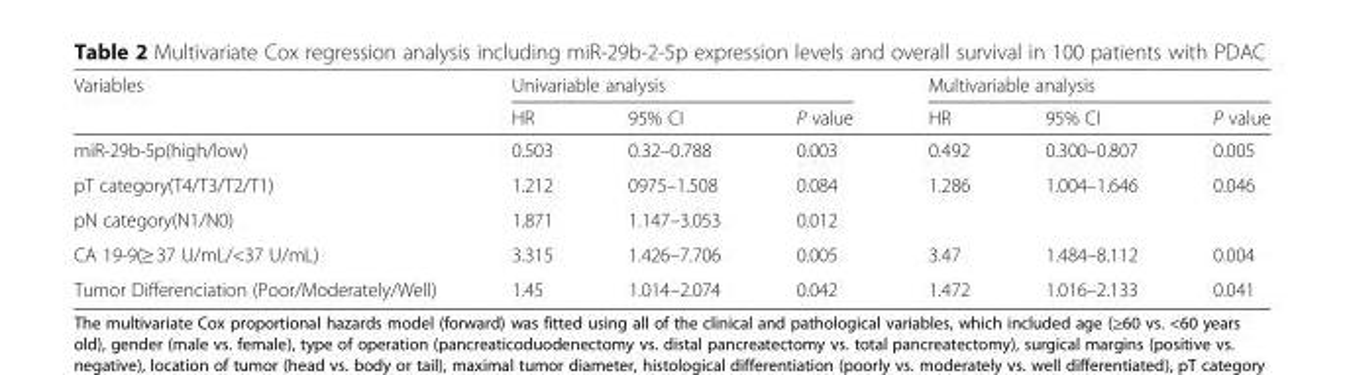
<table><thead><tr><td rowspan="2">Variables</td><td colspan="3">Univariable analysis</td><td colspan="3">Multivariable analysis</td></tr><tr><td>HR</td><td>95% CI</td><td>P value</td><td>HR</td><td>95% CI</td><td>P value</td></tr></thead><tbody><tr><td>miR-29b-5p(high/low)</td><td>0.503</td><td>0.32–0.788</td><td>0.003</td><td>0.492</td><td>0.300–0.807</td><td>0.005</td></tr><tr><td>pT category(T4/T3/T2/T1)</td><td>1.212</td><td>0975–1.508</td><td>0.084</td><td>1.286</td><td>1.004–1.646</td><td>0.046</td></tr><tr><td>pN category(N1/N0)</td><td>1.871</td><td>1.147–3.053</td><td>0.012</td><td></td><td></td><td></td></tr><tr><td>CA 19-9(≥ 37 U/mL/&lt;37 U/mL)</td><td>3.315</td><td>1.426–7.706</td><td>0.005</td><td>3.47</td><td>1.484–8.112</td><td>0.004</td></tr><tr><td>Tumor Differenciation (Poor/Moderately/Well)</td><td>1.45</td><td>1.014–2.074</td><td>0.042</td><td>1.472</td><td>1.016–2.133</td><td>0.041</td></tr></tbody></table>